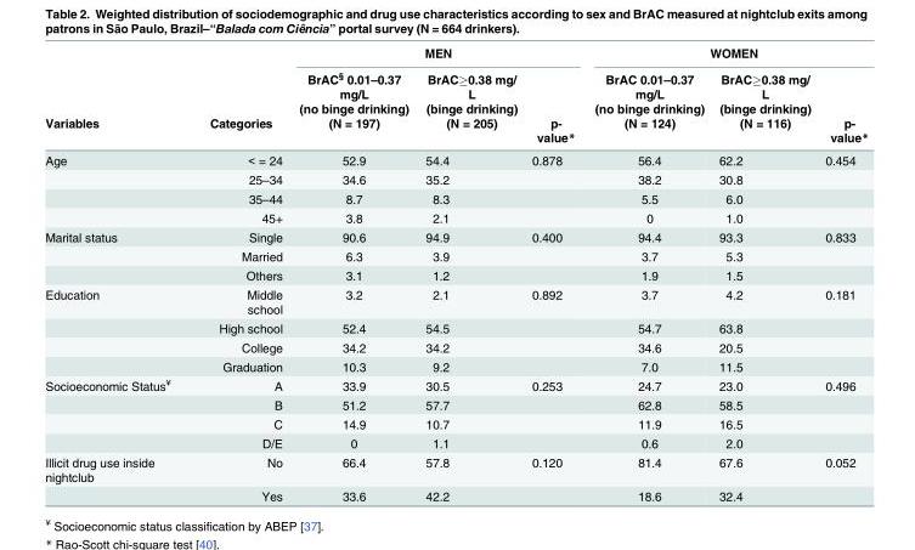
<table><thead><tr><td rowspan="4">Variables</td><td rowspan="4">Categories</td><td colspan="3">MEN</td><td colspan="3">WOMEN</td></tr><tr><td rowspan="3">BrAC<sup>§</sup> 0.01–0.37 mg/L (no binge drinking) (N = 197)</td><td rowspan="3">BrAC≥0.38 mg/ L (binge drinking) (N = 205)</td><td rowspan="3">p- value*</td><td rowspan="3">BrAC 0.01–0.37 mg/L (no binge drinking) (N = 124)</td><td rowspan="3">BrAC≥0.38 mg/ L (binge drinking) (N = 116)</td><td rowspan="3">p- value*</td></tr><tr></tr><tr></tr></thead><tbody><tr><td rowspan="4">Age</td><td>&lt; = 24</td><td>52.9</td><td>54.4</td><td>0.878</td><td>56.4</td><td>62.2</td><td>0.454</td></tr><tr><td>25–34</td><td>34.6</td><td>35.2</td><td></td><td>38.2</td><td>30.8</td><td></td></tr><tr><td>35–44</td><td>8.7</td><td>8.3</td><td></td><td>5.5</td><td>6.0</td><td></td></tr><tr><td>45+</td><td>3.8</td><td>2.1</td><td></td><td>0</td><td>1.0</td><td></td></tr><tr><td rowspan="3">Marital status</td><td>Single</td><td>90.6</td><td>94.9</td><td>0.400</td><td>94.4</td><td>93.3</td><td>0.833</td></tr><tr><td>Married</td><td>6.3</td><td>3.9</td><td></td><td>3.7</td><td>5.3</td><td></td></tr><tr><td>Others</td><td>3.1</td><td>1.2</td><td></td><td>1.9</td><td>1.5</td><td></td></tr><tr><td rowspan="4">Education</td><td>Middle school</td><td>3.2</td><td>2.1</td><td>0.892</td><td>3.7</td><td>4.2</td><td>0.181</td></tr><tr><td>High school</td><td>52.4</td><td>54.5</td><td></td><td>54.7</td><td>63.8</td><td></td></tr><tr><td>College</td><td>34.2</td><td>34.2</td><td></td><td>34.6</td><td>20.5</td><td></td></tr><tr><td>Graduation</td><td>10.3</td><td>9.2</td><td></td><td>7.0</td><td>11.5</td><td></td></tr><tr><td rowspan="4">Socioeconomic Status<sup>¥</sup></td><td>A</td><td>33.9</td><td>30.5</td><td>0.253</td><td>24.7</td><td>23.0</td><td>0.496</td></tr><tr><td>B</td><td>51.2</td><td>57.7</td><td></td><td>62.8</td><td>58.5</td><td></td></tr><tr><td>C</td><td>14.9</td><td>10.7</td><td></td><td>11.9</td><td>16.5</td><td></td></tr><tr><td>D/E</td><td>0</td><td>1.1</td><td></td><td>0.6</td><td>2.0</td><td></td></tr><tr><td rowspan="2">Illicit drug use inside nightclub</td><td>No</td><td>66.4</td><td>57.8</td><td>0.120</td><td>81.4</td><td>67.6</td><td>0.052</td></tr><tr><td>Yes</td><td>33.6</td><td>42.2</td><td></td><td>18.6</td><td>32.4</td><td></td></tr></tbody></table>